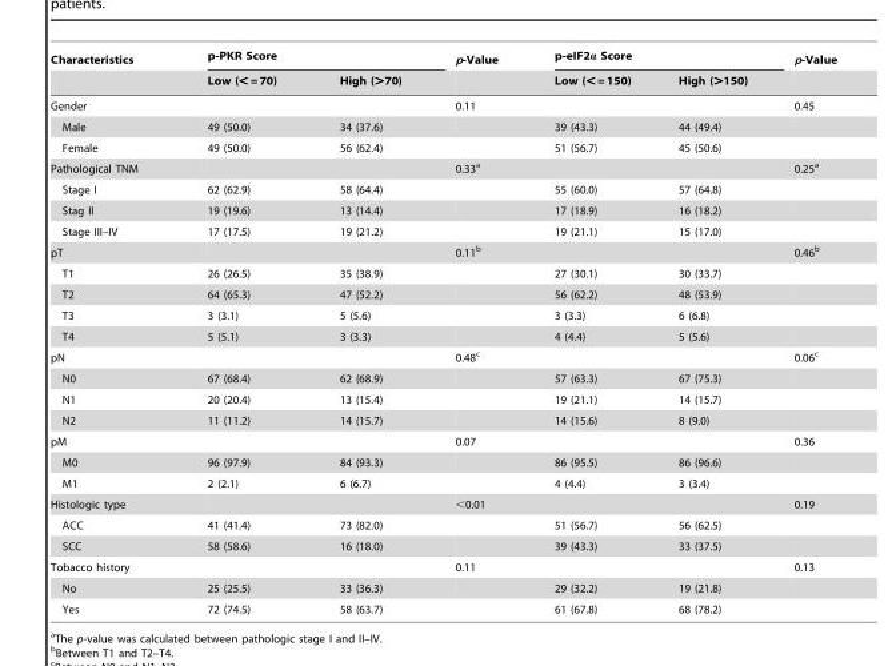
<table><thead><tr><td rowspan="2">Characteristics</td><td colspan="2">p-PKR Score</td><td rowspan="2">p-Value</td><td colspan="2">p-eIF2α Score</td><td rowspan="2">p-Value</td></tr><tr><td>Low (&lt; = 70)</td><td>High (&gt;70)</td><td>Low (&lt; = 150)</td><td>High (&gt;150)</td></tr></thead><tbody><tr><td>Gender</td><td></td><td></td><td>0.11</td><td></td><td></td><td>0.45</td></tr><tr><td>Male</td><td>49 (50.0)</td><td>34 (37.6)</td><td></td><td>39 (43.3)</td><td>44 (49.4)</td><td></td></tr><tr><td>Female</td><td>49 (50.0)</td><td>56 (62.4)</td><td></td><td>51 (56.7)</td><td>45 (50.6)</td><td></td></tr><tr><td>Pathological TNM</td><td></td><td></td><td>0.33<sup>a</sup></td><td></td><td></td><td>0.25<sup>a</sup></td></tr><tr><td>Stage I</td><td>62 (62.9)</td><td>58 (64.4)</td><td></td><td>55 (60.0)</td><td>57 (64.8)</td><td></td></tr><tr><td>Stag II</td><td>19 (19.6)</td><td>13 (14.4)</td><td></td><td>17 (18.9)</td><td>16 (18.2)</td><td></td></tr><tr><td>Stage III–IV</td><td>17 (17.5)</td><td>19 (21.2)</td><td></td><td>19 (21.1)</td><td>15 (17.0)</td><td></td></tr><tr><td>pT</td><td></td><td></td><td>0.11<sup>b</sup></td><td></td><td></td><td>0.46<sup>b</sup></td></tr><tr><td>T1</td><td>26 (26.5)</td><td>35 (38.9)</td><td></td><td>27 (30.1)</td><td>30 (33.7)</td><td></td></tr><tr><td>T2</td><td>64 (65.3)</td><td>47 (52.2)</td><td></td><td>56 (62.2)</td><td>48 (53.9)</td><td></td></tr><tr><td>T3</td><td>3 (3.1)</td><td>5 (5.6)</td><td></td><td>3 (3.3)</td><td>6 (6.8)</td><td></td></tr><tr><td>T4</td><td>5 (5.1)</td><td>3 (3.3)</td><td></td><td>4 (4.4)</td><td>5 (5.6)</td><td></td></tr><tr><td>pN</td><td></td><td></td><td>0.48<sup>c</sup></td><td></td><td></td><td>0.06<sup>c</sup></td></tr><tr><td>N0</td><td>67 (68.4)</td><td>62 (68.9)</td><td></td><td>57 (63.3)</td><td>67 (75.3)</td><td></td></tr><tr><td>N1</td><td>20 (20.4)</td><td>13 (15.4)</td><td></td><td>19 (21.1)</td><td>14 (15.7)</td><td></td></tr><tr><td>N2</td><td>11 (11.2)</td><td>14 (15.7)</td><td></td><td>14 (15.6)</td><td>8 (9.0)</td><td></td></tr><tr><td>pM</td><td></td><td></td><td>0.07</td><td></td><td></td><td>0.36</td></tr><tr><td>M0</td><td>96 (97.9)</td><td>84 (93.3)</td><td></td><td>86 (95.5)</td><td>86 (96.6)</td><td></td></tr><tr><td>M1</td><td>2 (2.1)</td><td>6 (6.7)</td><td></td><td>4 (4.4)</td><td>3 (3.4)</td><td></td></tr><tr><td>Histologic type</td><td></td><td></td><td>&lt;0.01</td><td></td><td></td><td>0.19</td></tr><tr><td>ACC</td><td>41 (41.4)</td><td>73 (82.0)</td><td></td><td>51 (56.7)</td><td>56 (62.5)</td><td></td></tr><tr><td>SCC</td><td>58 (58.6)</td><td>16 (18.0)</td><td></td><td>39 (43.3)</td><td>33 (37.5)</td><td></td></tr><tr><td>Tobacco history</td><td></td><td></td><td>0.11</td><td></td><td></td><td>0.13</td></tr><tr><td>No</td><td>25 (25.5)</td><td>33 (36.3)</td><td></td><td>29 (32.2)</td><td>19 (21.8)</td><td></td></tr><tr><td>Yes</td><td>72 (74.5)</td><td>58 (63.7)</td><td></td><td>61 (67.8)</td><td>68 (78.2)</td><td></td></tr></tbody></table>